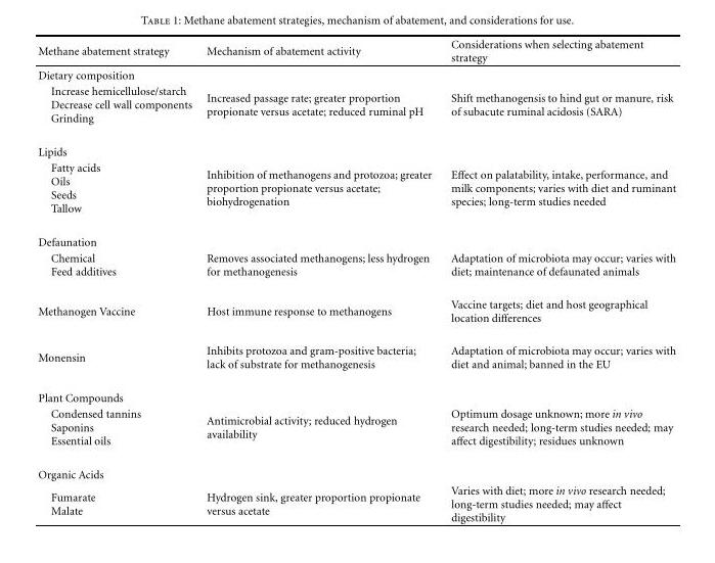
<table><thead><tr><td>Methane abatement strategy</td><td>Mechanism of abatement activity</td><td>Considerations when selecting abatement strategy</td></tr></thead><tbody><tr><td colspan="3">Dietary composition</td></tr><tr><td>Increase hemicellulose/starch Decrease cell wall components Grinding</td><td>Increased passage rate; greater proportion propionate versus acetate; reduced ruminal pH</td><td>Shift methanogensis to hind gut or manure, risk of subacute ruminal acidosis (SARA)</td></tr><tr><td colspan="3">Lipids</td></tr><tr><td>Fatty acids Oils Seeds Tallow</td><td>Inhibition of methanogens and protozoa; greater proportion propionate versus acetate; biohydrogenation</td><td>Effect on palatability, intake, performance, and milk components; varies with diet and ruminant species; long-term studies needed</td></tr><tr><td colspan="3">Defaunation</td></tr><tr><td>Chemical Feed additives</td><td>Removes associated methanogens; less hydrogen for methanogenesis</td><td>Adaptation of microbiota may occur; varies with diet; maintenance of defaunated animals</td></tr><tr><td>Methanogen Vaccine</td><td>Host immune response to methanogens</td><td>Vaccine targets; diet and host geographical location differences</td></tr><tr><td>Monensin</td><td>Inhibits protozoa and gram-positive bacteria; lack of substrate for methanogenesis</td><td>Adaptation of microbiota may occur; varies with diet and animal; banned in the EU</td></tr><tr><td colspan="3">Plant Compounds</td></tr><tr><td>Condensed tannins Saponins Essential oils</td><td>Antimicrobial activity; reduced hydrogen availability</td><td>Optimum dosage unknown; more in vivo research needed; long-term studies needed; may affect digestibility; residues unknown</td></tr><tr><td colspan="3">Organic Acids</td></tr><tr><td>Fumarate Malate</td><td>Hydrogen sink, greater proportion propionate versus acetate</td><td>Varies with diet; more in vivo research needed; long-term studies needed; may affect digestibility</td></tr></tbody></table>